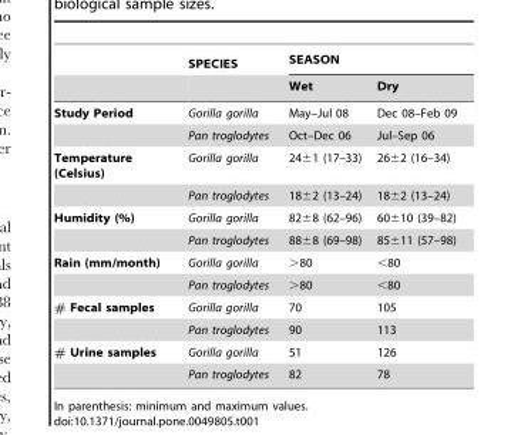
<table><thead><tr><td rowspan="2"></td><td rowspan="2">SPECIES</td><td colspan="2">SEASON</td></tr><tr><td>Wet</td><td>Dry</td></tr></thead><tbody><tr><td rowspan="2">Study Period</td><td>Gorilla gorilla</td><td>May–Jul 08</td><td>Dec 08–Feb 09</td></tr><tr><td>Pan troglodytes</td><td>Oct–Dec 06</td><td>Jul–Sep 06</td></tr><tr><td rowspan="2">Temperature (Celsius)</td><td>Gorilla gorilla</td><td>24±1 (17–33)</td><td>26±2 (16–34)</td></tr><tr><td>Pan troglodytes</td><td>18±2 (13–24)</td><td>18±2 (13–24)</td></tr><tr><td rowspan="2">Humidity (%)</td><td>Gorilla gorilla</td><td>82±8 (62–96)</td><td>60±10 (39–82)</td></tr><tr><td>Pan troglodytes</td><td>88±8 (69–98)</td><td>85±11 (57–98)</td></tr><tr><td rowspan="2">Rain (mm/month)</td><td>Gorilla gorilla</td><td>&gt;80</td><td>&lt;80</td></tr><tr><td>Pan troglodytes</td><td>&gt;80</td><td>&lt;80</td></tr><tr><td rowspan="2"># Fecal samples</td><td>Gorilla gorilla</td><td>70</td><td>105</td></tr><tr><td>Pan troglodytes</td><td>90</td><td>113</td></tr><tr><td rowspan="2"># Urine samples</td><td>Gorilla gorilla</td><td>51</td><td>126</td></tr><tr><td>Pan troglodytes</td><td>82</td><td>78</td></tr></tbody></table>